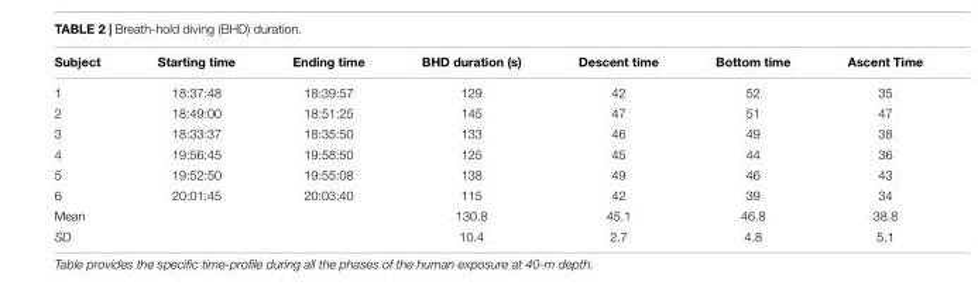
<table><thead><tr><td>Subject</td><td>Starting time</td><td>Ending time</td><td>BHD duration (s)</td><td>Descent time</td><td>Bottom time</td><td>Ascent Time</td></tr></thead><tbody><tr><td>1</td><td>18:37:48</td><td>18:39:57</td><td>129</td><td>42</td><td>52</td><td>35</td></tr><tr><td>2</td><td>18:49:00</td><td>18:51:25</td><td>145</td><td>47</td><td>51</td><td>47</td></tr><tr><td>3</td><td>18:33:37</td><td>18:35:50</td><td>133</td><td>46</td><td>49</td><td>38</td></tr><tr><td>4</td><td>19:56:45</td><td>19:58:50</td><td>125</td><td>45</td><td>44</td><td>36</td></tr><tr><td>5</td><td>19:52:50</td><td>19:55:08</td><td>138</td><td>49</td><td>46</td><td>43</td></tr><tr><td>6</td><td>20:01:45</td><td>20:03:40</td><td>115</td><td>42</td><td>39</td><td>34</td></tr><tr><td>Mean</td><td></td><td></td><td>130.8</td><td>45.1</td><td>46.8</td><td>38.8</td></tr><tr><td>SD</td><td></td><td></td><td>10.4</td><td>2.7</td><td>4.8</td><td>5.1</td></tr></tbody></table>